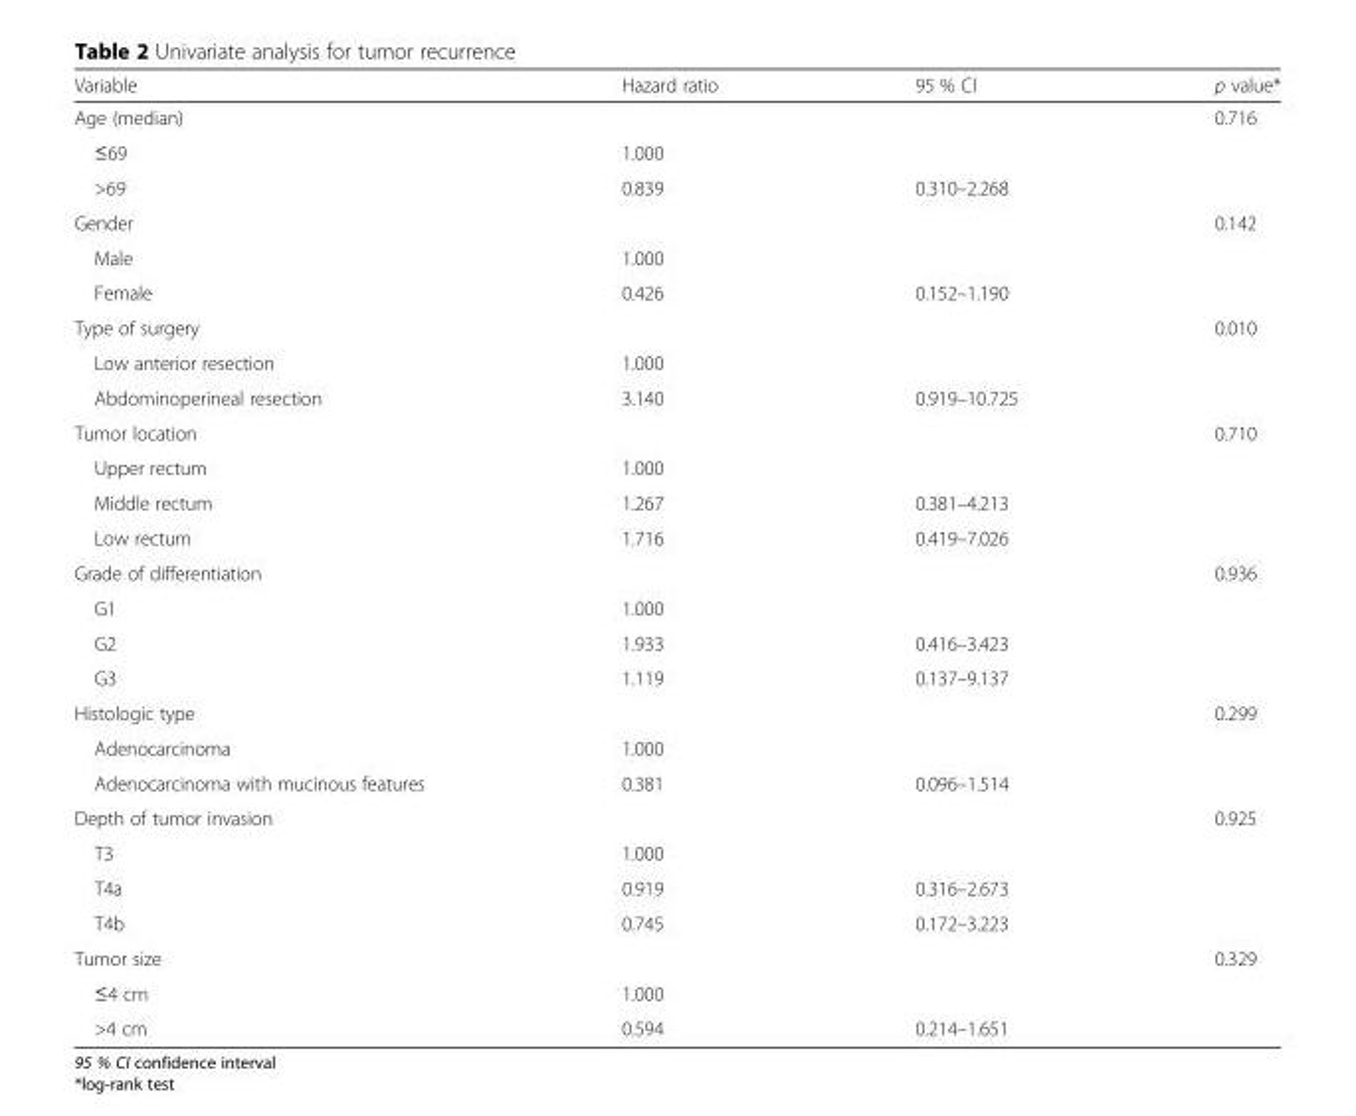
<table><thead><tr><td>Variable</td><td>Hazard ratio</td><td>95 % CI</td><td>p value*</td></tr></thead><tbody><tr><td>Age (median)</td><td></td><td></td><td>0.716</td></tr><tr><td>≤69</td><td>1.000</td><td></td><td></td></tr><tr><td>&gt;69</td><td>0.839</td><td>0.310–2.268</td><td></td></tr><tr><td>Gender</td><td></td><td></td><td>0.142</td></tr><tr><td>Male</td><td>1.000</td><td></td><td></td></tr><tr><td>Female</td><td>0.426</td><td>0.152–1.190</td><td></td></tr><tr><td>Type of surgery</td><td></td><td></td><td>0.010</td></tr><tr><td>Low anterior resection</td><td>1.000</td><td></td><td></td></tr><tr><td>Abdominoperineal resection</td><td>3.140</td><td>0.919–10.725</td><td></td></tr><tr><td>Tumor location</td><td></td><td></td><td>0.710</td></tr><tr><td>Upper rectum</td><td>1.000</td><td></td><td></td></tr><tr><td>Middle rectum</td><td>1.267</td><td>0.381–4.213</td><td></td></tr><tr><td>Low rectum</td><td>1.716</td><td>0.419–7.026</td><td></td></tr><tr><td>Grade of differentiation</td><td></td><td></td><td>0.936</td></tr><tr><td>G1</td><td>1.000</td><td></td><td></td></tr><tr><td>G2</td><td>1.933</td><td>0.416–3.423</td><td></td></tr><tr><td>G3</td><td>1.119</td><td>0.137–9.137</td><td></td></tr><tr><td>Histologic type</td><td></td><td></td><td>0.299</td></tr><tr><td>Adenocarcinoma</td><td>1.000</td><td></td><td></td></tr><tr><td>Adenocarcinoma with mucinous features</td><td>0.381</td><td>0.096–1.514</td><td></td></tr><tr><td>Depth of tumor invasion</td><td></td><td></td><td>0.925</td></tr><tr><td>T3</td><td>1.000</td><td></td><td></td></tr><tr><td>T4a</td><td>0.919</td><td>0.316–2.673</td><td></td></tr><tr><td>T4b</td><td>0.745</td><td>0.172–3.223</td><td></td></tr><tr><td>Tumor size</td><td></td><td></td><td>0.329</td></tr><tr><td>≤4 cm</td><td>1.000</td><td></td><td></td></tr><tr><td>&gt;4 cm</td><td>0.594</td><td>0.214–1.651</td><td></td></tr></tbody></table>